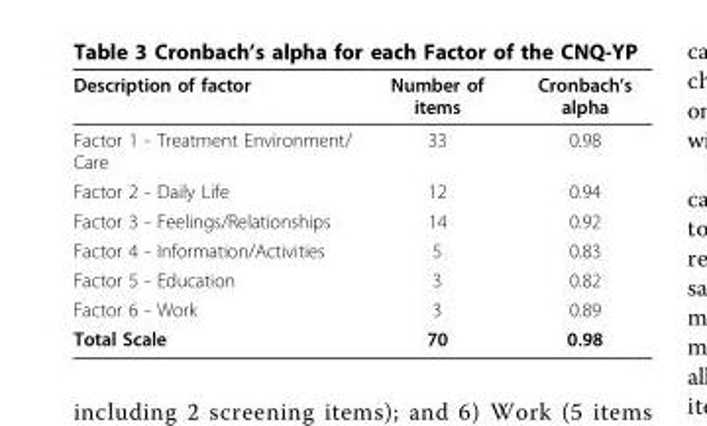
<table><thead><tr><td>Description of factor</td><td>Number of items</td><td>Cronbach’s alpha</td></tr></thead><tbody><tr><td>Factor 1 - Treatment Environment/ Care</td><td>33</td><td>0.98</td></tr><tr><td>Factor 2 - Daily Life</td><td>12</td><td>0.94</td></tr><tr><td>Factor 3 - Feelings/Relationships</td><td>14</td><td>0.92</td></tr><tr><td>Factor 4 - Information/Activities</td><td>5</td><td>0.83</td></tr><tr><td>Factor 5 - Education</td><td>3</td><td>0.82</td></tr><tr><td>Factor 6 - Work</td><td>3</td><td>0.89</td></tr><tr><td>Total Scale</td><td>70</td><td>0.98</td></tr></tbody></table>